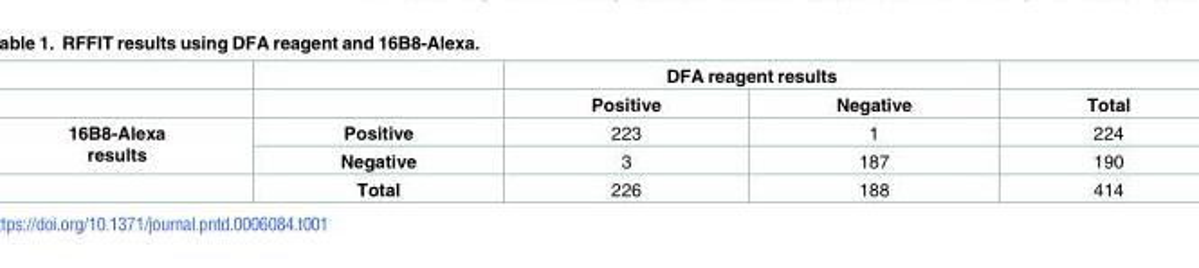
<table><thead><tr><td rowspan="2"></td><td rowspan="2"></td><td colspan="2">DFA reagent results</td><td rowspan="2">Total</td></tr><tr><td>Positive</td><td>Negative</td></tr></thead><tbody><tr><td rowspan="3">16B8-Alexa results</td><td>Positive</td><td>223</td><td>1</td><td>224</td></tr><tr><td>Negative</td><td>3</td><td>187</td><td>190</td></tr><tr><td>Total</td><td>226</td><td>188</td><td>414</td></tr></tbody></table>